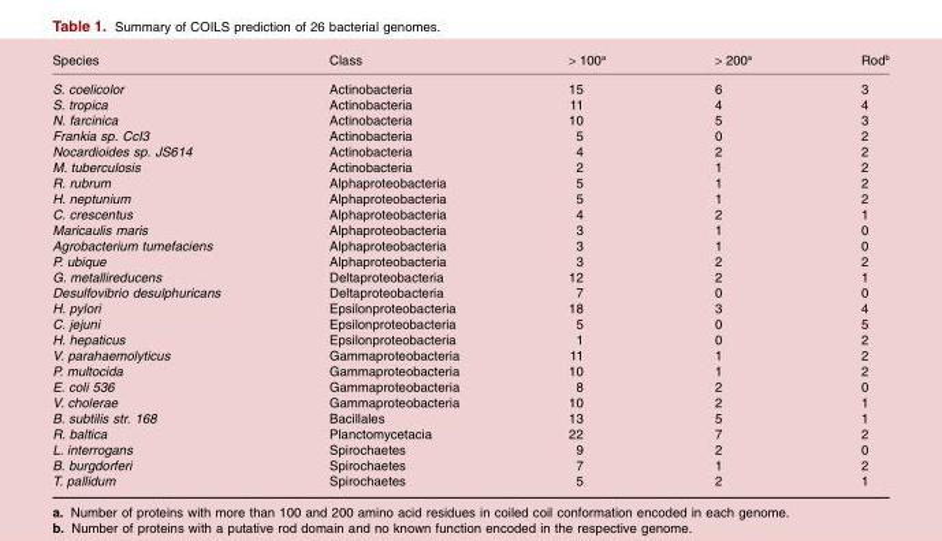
<table><thead><tr><td>Species</td><td>Class</td><td>&gt; 100<sup>a</sup></td><td>&gt; 200<sup>a</sup></td><td>Rod<sup>b</sup></td></tr></thead><tbody><tr><td>S. coelicolor</td><td>Actinobacteria</td><td>15</td><td>6</td><td>3</td></tr><tr><td>S. tropica</td><td>Actinobacteria</td><td>11</td><td>4</td><td>4</td></tr><tr><td>N. farcinica</td><td>Actinobacteria</td><td>10</td><td>5</td><td>3</td></tr><tr><td>Frankia sp. CcI3</td><td>Actinobacteria</td><td>5</td><td>0</td><td>2</td></tr><tr><td>Nocardioides sp. JS614</td><td>Actinobacteria</td><td>4</td><td>2</td><td>2</td></tr><tr><td>M. tuberculosis</td><td>Actinobacteria</td><td>2</td><td>1</td><td>2</td></tr><tr><td>R. rubrum</td><td>Alphaproteobacteria</td><td>5</td><td>1</td><td>2</td></tr><tr><td>H. neptunium</td><td>Alphaproteobacteria</td><td>5</td><td>1</td><td>2</td></tr><tr><td>C. crescentus</td><td>Alphaproteobacteria</td><td>4</td><td>2</td><td>1</td></tr><tr><td>Maricaulis maris</td><td>Alphaproteobacteria</td><td>3</td><td>1</td><td>0</td></tr><tr><td>Agrobacterium tumefaciens</td><td>Alphaproteobacteria</td><td>3</td><td>1</td><td>0</td></tr><tr><td>P. ubique</td><td>Alphaproteobacteria</td><td>3</td><td>2</td><td>2</td></tr><tr><td>G. metallireducens</td><td>Deltaproteobacteria</td><td>12</td><td>2</td><td>1</td></tr><tr><td>Desulfovibrio desulphuricans</td><td>Deltaproteobacteria</td><td>7</td><td>0</td><td>0</td></tr><tr><td>H. pylori</td><td>Epsilonproteobacteria</td><td>18</td><td>3</td><td>4</td></tr><tr><td>C. jejuni</td><td>Epsilonproteobacteria</td><td>5</td><td>0</td><td>5</td></tr><tr><td>H. hepaticus</td><td>Epsilonproteobacteria</td><td>1</td><td>0</td><td>2</td></tr><tr><td>V. parahaemolyticus</td><td>Gammaproteobacteria</td><td>11</td><td>1</td><td>2</td></tr><tr><td>P. multocida</td><td>Gammaproteobacteria</td><td>10</td><td>1</td><td>2</td></tr><tr><td>E. coli 536</td><td>Gammaproteobacteria</td><td>8</td><td>2</td><td>0</td></tr><tr><td>V. cholerae</td><td>Gammaproteobacteria</td><td>10</td><td>2</td><td>1</td></tr><tr><td>B. subtilis str. 168</td><td>Bacillales</td><td>13</td><td>5</td><td>1</td></tr><tr><td>R. baltica</td><td>Planctomycetacia</td><td>22</td><td>7</td><td>2</td></tr><tr><td>L. interrogans</td><td>Spirochaetes</td><td>9</td><td>2</td><td>0</td></tr><tr><td>B. burgdorferi</td><td>Spirochaetes</td><td>7</td><td>1</td><td>2</td></tr><tr><td>T. pallidum</td><td>Spirochaetes</td><td>5</td><td>2</td><td>1</td></tr></tbody></table>